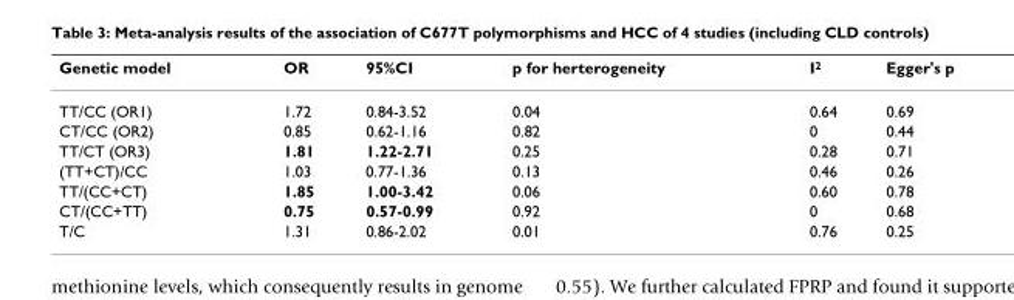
<table><thead><tr><td>Genetic model</td><td>OR</td><td>95%CI</td><td>p for herterogeneity</td><td>I<sup>2</sup></td><td>Egger&#x27;s p</td></tr></thead><tbody><tr><td>TT/CC (OR1)</td><td>1.72</td><td>0.84-3.52</td><td>0.04</td><td>0.64</td><td>0.69</td></tr><tr><td>CT/CC (OR2)</td><td>0.85</td><td>0.62-1.16</td><td>0.82</td><td>0</td><td>0.44</td></tr><tr><td>TT/CT (OR3)</td><td>1.81</td><td>1.22-2.71</td><td>0.25</td><td>0.28</td><td>0.71</td></tr><tr><td>(TT+CT)/CC</td><td>1.03</td><td>0.77-1.36</td><td>0.13</td><td>0.46</td><td>0.26</td></tr><tr><td>TT/(CC+CT)</td><td>1.85</td><td>1.00-3.42</td><td>0.06</td><td>0.60</td><td>0.78</td></tr><tr><td>CT/(CC+TT)</td><td>0.75</td><td>0.57-0.99</td><td>0.92</td><td>0</td><td>0.68</td></tr><tr><td>T/C</td><td>1.31</td><td>0.86-2.02</td><td>0.01</td><td>0.76</td><td>0.25</td></tr></tbody></table>